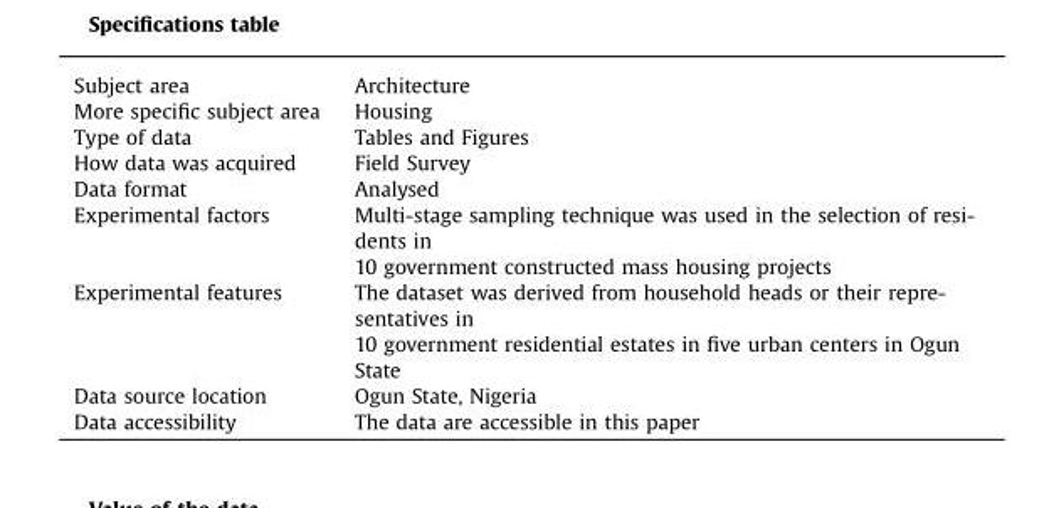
<table><tbody><tr><td>Subject area</td><td>Architecture</td></tr><tr><td>More specific subject area</td><td>Housing</td></tr><tr><td>Type of data</td><td>Tables and Figures</td></tr><tr><td>How data was acquired</td><td>Field Survey</td></tr><tr><td>Data format</td><td>Analysed</td></tr><tr><td>Experimental factors</td><td>Multi-stage sampling technique was used in the selection of resi- dents in 10 government constructed mass housing projects</td></tr><tr><td>Experimental features</td><td>The dataset was derived from household heads or their repre- sentatives in 10 government residential estates in five urban centers in Ogun State</td></tr><tr><td>Data source location</td><td>Ogun State, Nigeria</td></tr><tr><td>Data accessibility</td><td>The data are accessible in this paper</td></tr></tbody></table>